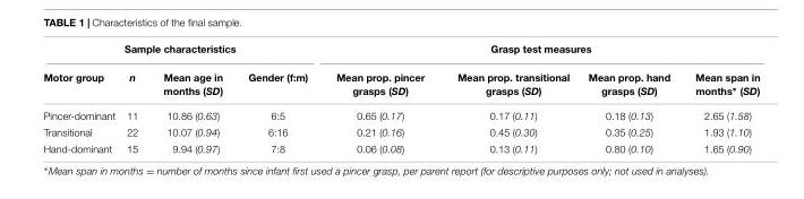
<table><thead><tr><td colspan="4">Sample characteristics</td><td colspan="4">Grasp test measures</td></tr><tr><td>Motor group</td><td>n</td><td>Mean age in months (SD)</td><td>Gender (f:m)</td><td>Mean prop. pincer grasps (SD)</td><td>Mean prop. transitional grasps (SD)</td><td>Mean prop. hand grasps (SD)</td><td>Mean span in months∗ (SD)</td></tr></thead><tbody><tr><td>Pincer-dominant</td><td>11</td><td>10.86 (0.63)</td><td>6:5</td><td>0.65 (0.17)</td><td>0.17 (0.11)</td><td>0.18 (0.13)</td><td>2.65 (1.58)</td></tr><tr><td>Transitional</td><td>22</td><td>10.07 (0.94)</td><td>6:16</td><td>0.21 (0.16)</td><td>0.45 (0.30)</td><td>0.35 (0.25)</td><td>1.93 (1.10)</td></tr><tr><td>Hand-dominant</td><td>15</td><td>9.94 (0.97)</td><td>7:8</td><td>0.06 (0.08)</td><td>0.13 (0.11)</td><td>0.80 (0.10)</td><td>1.65 (0.90)</td></tr></tbody></table>